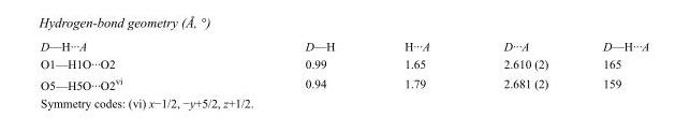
<table><tbody><tr><td>D—H···A</td><td>D—H</td><td>H···A</td><td>D···A</td><td>D—H···A</td></tr><tr><td>O1—H1O···O2</td><td>0.99</td><td>1.65</td><td>2.610 (2)</td><td>165</td></tr><tr><td>O5—H5O···O2<sup>vi</sup></td><td>0.94</td><td>1.79</td><td>2.681 (2)</td><td>159</td></tr></tbody></table>